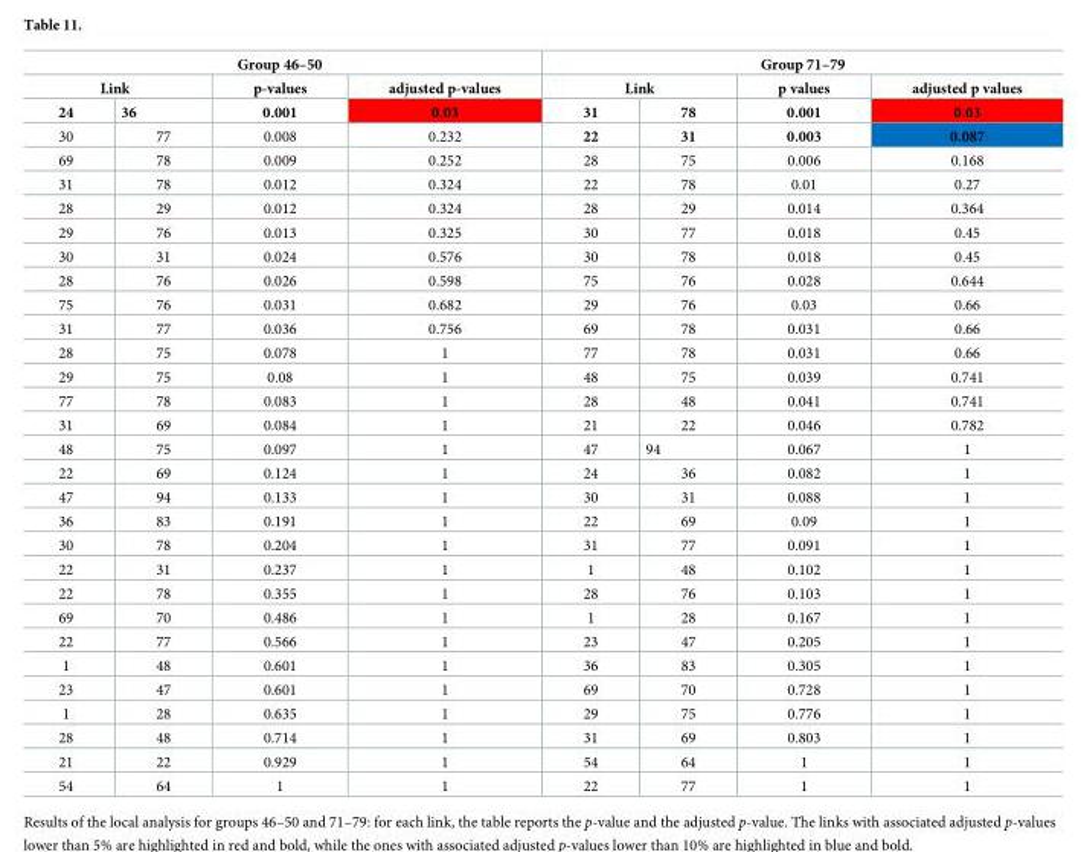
<table><thead><tr><td colspan="4">Group 46–50</td><td colspan="4">Group 71–79</td></tr><tr><td colspan="2">Link</td><td rowspan="2">p-values 0.001</td><td rowspan="2">adjusted p-values 0.03</td><td colspan="2">Link</td><td rowspan="2">p values 0.001</td><td rowspan="2">adjusted p values 0.03</td></tr><tr><td>24</td><td>36</td><td>31</td><td>78</td></tr></thead><tbody><tr><td>30</td><td>77</td><td>0.008</td><td>0.232</td><td>22</td><td>31</td><td>0.003</td><td>0.087</td></tr><tr><td>69</td><td>78</td><td>0.009</td><td>0.252</td><td>28</td><td>75</td><td>0.006</td><td>0.168</td></tr><tr><td>31</td><td>78</td><td>0.012</td><td>0.324</td><td>22</td><td>78</td><td>0.01</td><td>0.27</td></tr><tr><td>28</td><td>29</td><td>0.012</td><td>0.324</td><td>28</td><td>29</td><td>0.014</td><td>0.364</td></tr><tr><td>29</td><td>76</td><td>0.013</td><td>0.325</td><td>30</td><td>77</td><td>0.018</td><td>0.45</td></tr><tr><td>30</td><td>31</td><td>0.024</td><td>0.576</td><td>30</td><td>78</td><td>0.018</td><td>0.45</td></tr><tr><td>28</td><td>76</td><td>0.026</td><td>0.598</td><td>75</td><td>76</td><td>0.028</td><td>0.644</td></tr><tr><td>75</td><td>76</td><td>0.031</td><td>0.682</td><td>29</td><td>76</td><td>0.03</td><td>0.66</td></tr><tr><td>31</td><td>77</td><td>0.036</td><td>0.756</td><td>69</td><td>78</td><td>0.031</td><td>0.66</td></tr><tr><td>28</td><td>75</td><td>0.078</td><td>1</td><td>77</td><td>78</td><td>0.031</td><td>0.66</td></tr><tr><td>29</td><td>75</td><td>0.08</td><td>1</td><td>48</td><td>75</td><td>0.039</td><td>0.741</td></tr><tr><td>77</td><td>78</td><td>0.083</td><td>1</td><td>28</td><td>48</td><td>0.041</td><td>0.741</td></tr><tr><td>31</td><td>69</td><td>0.084</td><td>1</td><td>21</td><td>22</td><td>0.046</td><td>0.782</td></tr><tr><td>48</td><td>75</td><td>0.097</td><td>1</td><td>47</td><td>94</td><td>0.067</td><td>1</td></tr><tr><td>22</td><td>69</td><td>0.124</td><td>1</td><td>24</td><td>36</td><td>0.082</td><td>1</td></tr><tr><td>47</td><td>94</td><td>0.133</td><td>1</td><td>30</td><td>31</td><td>0.088</td><td>1</td></tr><tr><td>36</td><td>83</td><td>0.191</td><td>1</td><td>22</td><td>69</td><td>0.09</td><td>1</td></tr><tr><td>30</td><td>78</td><td>0.204</td><td>1</td><td>31</td><td>77</td><td>0.091</td><td>1</td></tr><tr><td>22</td><td>31</td><td>0.237</td><td>1</td><td>1</td><td>48</td><td>0.102</td><td>1</td></tr><tr><td>22</td><td>78</td><td>0.355</td><td>1</td><td>28</td><td>76</td><td>0.103</td><td>1</td></tr><tr><td>69</td><td>70</td><td>0.486</td><td>1</td><td>1</td><td>28</td><td>0.167</td><td>1</td></tr><tr><td>22</td><td>77</td><td>0.566</td><td>1</td><td>23</td><td>47</td><td>0.205</td><td>1</td></tr><tr><td>1</td><td>48</td><td>0.601</td><td>1</td><td>36</td><td>83</td><td>0.305</td><td>1</td></tr><tr><td>23</td><td>47</td><td>0.601</td><td>1</td><td>69</td><td>70</td><td>0.728</td><td>1</td></tr><tr><td>1</td><td>28</td><td>0.635</td><td>1</td><td>29</td><td>75</td><td>0.776</td><td>1</td></tr><tr><td>28</td><td>48</td><td>0.714</td><td>1</td><td>31</td><td>69</td><td>0.803</td><td>1</td></tr><tr><td>21</td><td>22</td><td>0.929</td><td>1</td><td>54</td><td>64</td><td>1</td><td>1</td></tr><tr><td>54</td><td>64</td><td>1</td><td>1</td><td>22</td><td>77</td><td>1</td><td>1</td></tr></tbody></table>